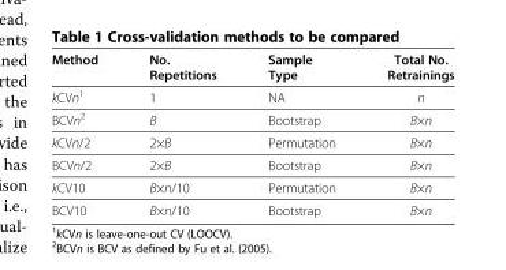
<table><thead><tr><td>Method</td><td>No. Repetitions</td><td>Sample Type</td><td>Total No. Retrainings</td></tr></thead><tbody><tr><td>kCVn<sup>1</sup></td><td>1</td><td>NA</td><td>n</td></tr><tr><td>BCVn<sup>2</sup></td><td>B</td><td>Bootstrap</td><td>B×n</td></tr><tr><td>kCVn/2</td><td>2×B</td><td>Permutation</td><td>B×n</td></tr><tr><td>BCVn/2</td><td>2×B</td><td>Bootstrap</td><td>B×n</td></tr><tr><td>kCV10</td><td>B×n/10</td><td>Permutation</td><td>B×n</td></tr><tr><td>BCV10</td><td>B×n/10</td><td>Bootstrap</td><td>B×n</td></tr></tbody></table>